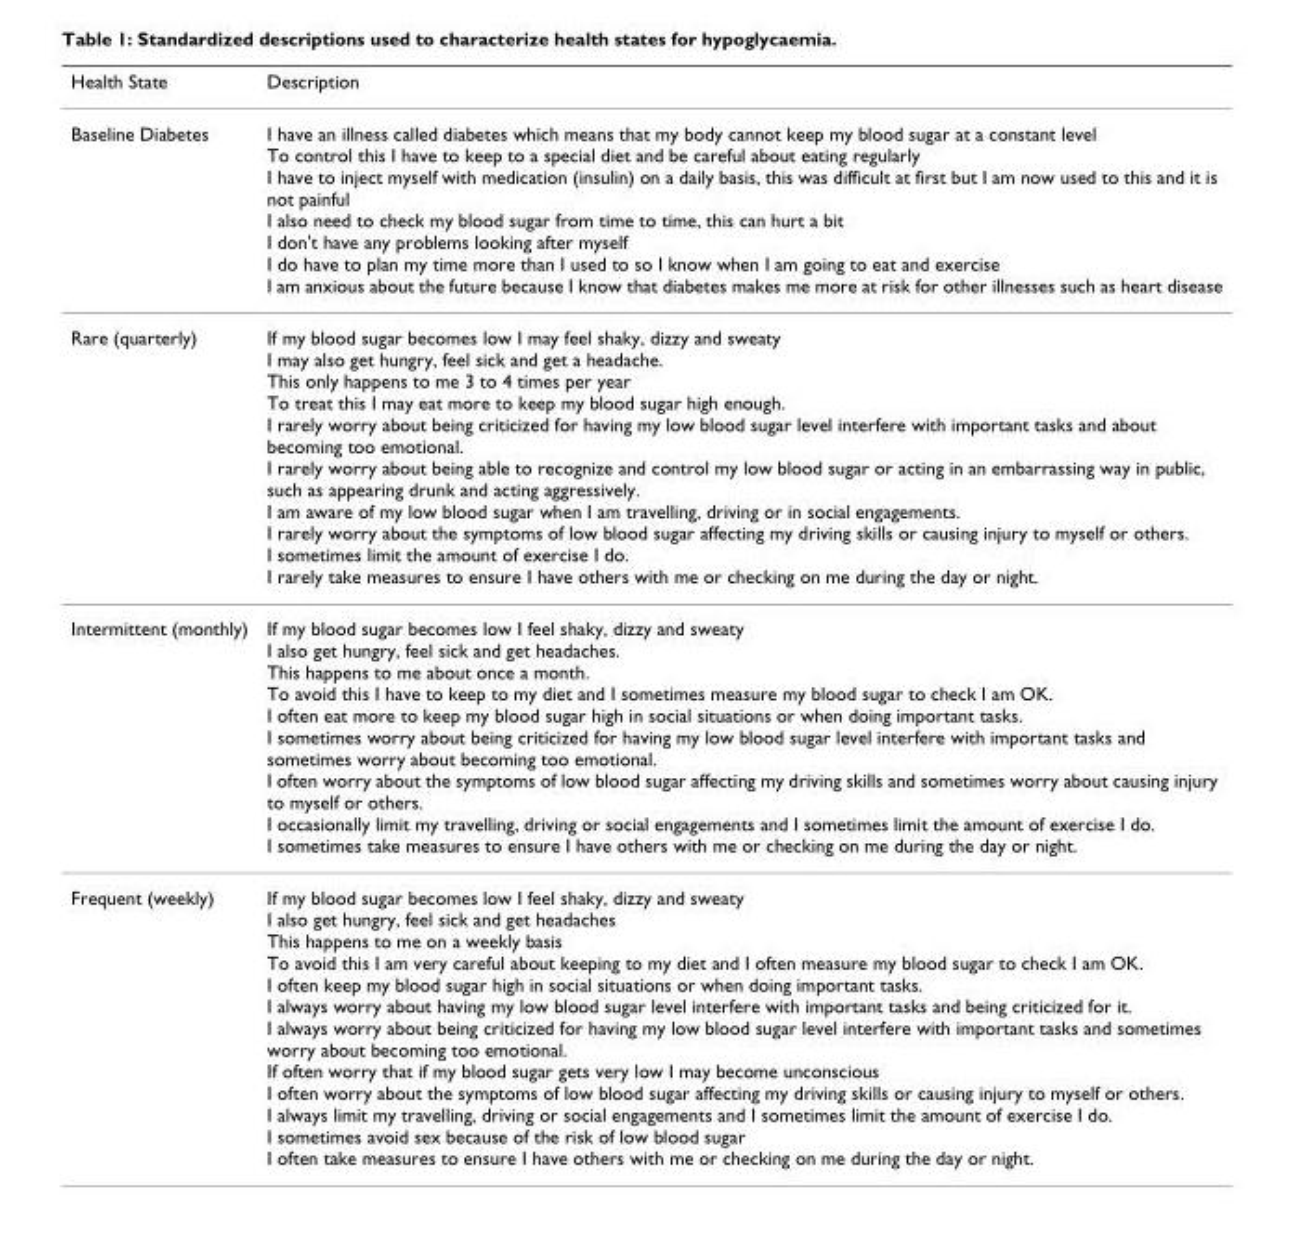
<table><thead><tr><td>Health State</td><td>Description</td></tr></thead><tbody><tr><td>Baseline Diabetes</td><td>I have an illness called diabetes which means that my body cannot keep my blood sugar at a constant level To control this I have to keep to a special diet and be careful about eating regularly I have to inject myself with medication (insulin) on a daily basis, this was difficult at first but I am now used to this and it is not painful I also need to check my blood sugar from time to time, this can hurt a bit I don&#x27;t have any problems looking after myself I do have to plan my time more than I used to so I know when I am going to eat and exercise I am anxious about the future because I know that diabetes makes me more at risk for other illnesses such as heart disease</td></tr><tr><td>Rare (quarterly)</td><td>If my blood sugar becomes low I may feel shaky, dizzy and sweaty I may also get hungry, feel sick and get a headache. This only happens to me 3 to 4 times per year To treat this I may eat more to keep my blood sugar high enough. I rarely worry about being criticized for having my low blood sugar level interfere with important tasks and about becoming too emotional. I rarely worry about being able to recognize and control my low blood sugar or acting in an embarrassing way in public, such as appearing drunk and acting aggressively. I am aware of my low blood sugar when I am travelling, driving or in social engagements. I rarely worry about the symptoms of low blood sugar affecting my driving skills or causing injury to myself or others. I sometimes limit the amount of exercise I do. I rarely take measures to ensure I have others with me or checking on me during the day or night.</td></tr><tr><td>Intermittent (monthly)</td><td>If my blood sugar becomes low I feel shaky, dizzy and sweaty I also get hungry, feel sick and get headaches. This happens to me about once a month. To avoid this I have to keep to my diet and I sometimes measure my blood sugar to check I am OK. I often eat more to keep my blood sugar high in social situations or when doing important tasks. I sometimes worry about being criticized for having my low blood sugar level interfere with important tasks and sometimes worry about becoming too emotional. I often worry about the symptoms of low blood sugar affecting my driving skills and sometimes worry about causing injury to myself or others. I occasionally limit my travelling, driving or social engagements and I sometimes limit the amount of exercise I do. I sometimes take measures to ensure I have others with me or checking on me during the day or night.</td></tr><tr><td>Frequent (weekly)</td><td>If my blood sugar becomes low I feel shaky, dizzy and sweaty I also get hungry, feel sick and get headaches This happens to me on a weekly basis To avoid this I am very careful about keeping to my diet and I often measure my blood sugar to check I am OK. I often keep my blood sugar high in social situations or when doing important tasks. I always worry about having my low blood sugar level interfere with important tasks and being criticized for it. I always worry about being criticized for having my low blood sugar level interfere with important tasks and sometimes worry about becoming too emotional. If often worry that if my blood sugar gets very low I may become unconscious I often worry about the symptoms of low blood sugar affecting my driving skills or causing injury to myself or others. I always limit my travelling, driving or social engagements and I sometimes limit the amount of exercise I do. I sometimes avoid sex because of the risk of low blood sugar I often take measures to ensure I have others with me or checking on me during the day or night.</td></tr></tbody></table>